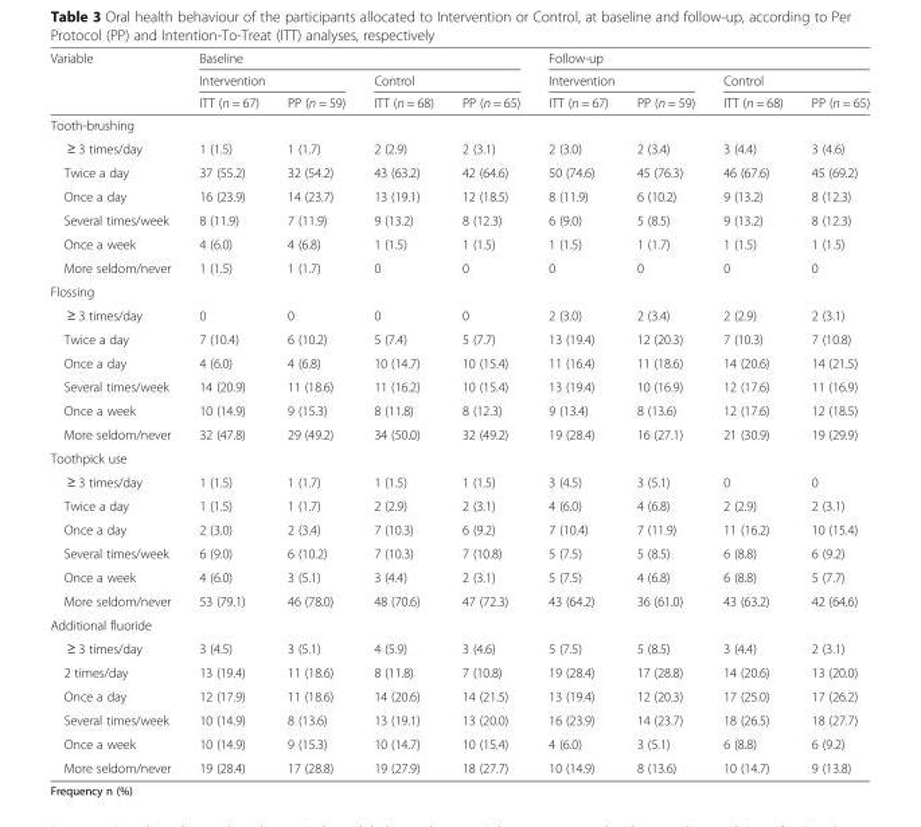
<table><thead><tr><td rowspan="3">Variable</td><td colspan="4">Baseline</td><td colspan="4">Follow-up</td></tr><tr><td colspan="2">Intervention</td><td colspan="2">Control</td><td colspan="2">Intervention</td><td colspan="2">Control</td></tr><tr><td>ITT (n = 67)</td><td>PP (n = 59)</td><td>ITT (n = 68)</td><td>PP (n = 65)</td><td>ITT (n = 67)</td><td>PP (n = 59)</td><td>ITT (n = 68)</td><td>PP (n = 65)</td></tr></thead><tbody><tr><td colspan="9">Tooth-brushing</td></tr><tr><td>≥ 3 times/day</td><td>1 (1.5)</td><td>1 (1.7)</td><td>2 (2.9)</td><td>2 (3.1)</td><td>2 (3.0)</td><td>2 (3.4)</td><td>3 (4.4)</td><td>3 (4.6)</td></tr><tr><td>Twice a day</td><td>37 (55.2)</td><td>32 (54.2)</td><td>43 (63.2)</td><td>42 (64.6)</td><td>50 (74.6)</td><td>45 (76.3)</td><td>46 (67.6)</td><td>45 (69.2)</td></tr><tr><td>Once a day</td><td>16 (23.9)</td><td>14 (23.7)</td><td>13 (19.1)</td><td>12 (18.5)</td><td>8 (11.9)</td><td>6 (10.2)</td><td>9 (13.2)</td><td>8 (12.3)</td></tr><tr><td>Several times/week</td><td>8 (11.9)</td><td>7 (11.9)</td><td>9 (13.2)</td><td>8 (12.3)</td><td>6 (9.0)</td><td>5 (8.5)</td><td>9 (13.2)</td><td>8 (12.3)</td></tr><tr><td>Once a week</td><td>4 (6.0)</td><td>4 (6.8)</td><td>1 (1.5)</td><td>1 (1.5)</td><td>1 (1.5)</td><td>1 (1.7)</td><td>1 (1.5)</td><td>1 (1.5)</td></tr><tr><td>More seldom/never</td><td>1 (1.5)</td><td>1 (1.7)</td><td>0</td><td>0</td><td>0</td><td>0</td><td>0</td><td>0</td></tr><tr><td colspan="9">Flossing</td></tr><tr><td>≥ 3 times/day</td><td>0</td><td>0</td><td>0</td><td>0</td><td>2 (3.0)</td><td>2 (3.4)</td><td>2 (2.9)</td><td>2 (3.1)</td></tr><tr><td>Twice a day</td><td>7 (10.4)</td><td>6 (10.2)</td><td>5 (7.4)</td><td>5 (7.7)</td><td>13 (19.4)</td><td>12 (20.3)</td><td>7 (10.3)</td><td>7 (10.8)</td></tr><tr><td>Once a day</td><td>4 (6.0)</td><td>4 (6.8)</td><td>10 (14.7)</td><td>10 (15.4)</td><td>11 (16.4)</td><td>11 (18.6)</td><td>14 (20.6)</td><td>14 (21.5)</td></tr><tr><td>Several times/week</td><td>14 (20.9)</td><td>11 (18.6)</td><td>11 (16.2)</td><td>10 (15.4)</td><td>13 (19.4)</td><td>10 (16.9)</td><td>12 (17.6)</td><td>11 (16.9)</td></tr><tr><td>Once a week</td><td>10 (14.9)</td><td>9 (15.3)</td><td>8 (11.8)</td><td>8 (12.3)</td><td>9 (13.4)</td><td>8 (13.6)</td><td>12 (17.6)</td><td>12 (18.5)</td></tr><tr><td>More seldom/never</td><td>32 (47.8)</td><td>29 (49.2)</td><td>34 (50.0)</td><td>32 (49.2)</td><td>19 (28.4)</td><td>16 (27.1)</td><td>21 (30.9)</td><td>19 (29.9)</td></tr><tr><td colspan="9">Toothpick use</td></tr><tr><td>≥ 3 times/day</td><td>1 (1.5)</td><td>1 (1.7)</td><td>1 (1.5)</td><td>1 (1.5)</td><td>3 (4.5)</td><td>3 (5.1)</td><td>0</td><td>0</td></tr><tr><td>Twice a day</td><td>1 (1.5)</td><td>1 (1.7)</td><td>2 (2.9)</td><td>2 (3.1)</td><td>4 (6.0)</td><td>4 (6.8)</td><td>2 (2.9)</td><td>2 (3.1)</td></tr><tr><td>Once a day</td><td>2 (3.0)</td><td>2 (3.4)</td><td>7 (10.3)</td><td>6 (9.2)</td><td>7 (10.4)</td><td>7 (11.9)</td><td>11 (16.2)</td><td>10 (15.4)</td></tr><tr><td>Several times/week</td><td>6 (9.0)</td><td>6 (10.2)</td><td>7 (10.3)</td><td>7 (10.8)</td><td>5 (7.5)</td><td>5 (8.5)</td><td>6 (8.8)</td><td>6 (9.2)</td></tr><tr><td>Once a week</td><td>4 (6.0)</td><td>3 (5.1)</td><td>3 (4.4)</td><td>2 (3.1)</td><td>5 (7.5)</td><td>4 (6.8)</td><td>6 (8.8)</td><td>5 (7.7)</td></tr><tr><td>More seldom/never</td><td>53 (79.1)</td><td>46 (78.0)</td><td>48 (70.6)</td><td>47 (72.3)</td><td>43 (64.2)</td><td>36 (61.0)</td><td>43 (63.2)</td><td>42 (64.6)</td></tr><tr><td colspan="9">Additional fluoride</td></tr><tr><td>≥ 3 times/day</td><td>3 (4.5)</td><td>3 (5.1)</td><td>4 (5.9)</td><td>3 (4.6)</td><td>5 (7.5)</td><td>5 (8.5)</td><td>3 (4.4)</td><td>2 (3.1)</td></tr><tr><td>2 times/day</td><td>13 (19.4)</td><td>11 (18.6)</td><td>8 (11.8)</td><td>7 (10.8)</td><td>19 (28.4)</td><td>17 (28.8)</td><td>14 (20.6)</td><td>13 (20.0)</td></tr><tr><td>Once a day</td><td>12 (17.9)</td><td>11 (18.6)</td><td>14 (20.6)</td><td>14 (21.5)</td><td>13 (19.4)</td><td>12 (20.3)</td><td>17 (25.0)</td><td>17 (26.2)</td></tr><tr><td>Several times/week</td><td>10 (14.9)</td><td>8 (13.6)</td><td>13 (19.1)</td><td>13 (20.0)</td><td>16 (23.9)</td><td>14 (23.7)</td><td>18 (26.5)</td><td>18 (27.7)</td></tr><tr><td>Once a week</td><td>10 (14.9)</td><td>9 (15.3)</td><td>10 (14.7)</td><td>10 (15.4)</td><td>4 (6.0)</td><td>3 (5.1)</td><td>6 (8.8)</td><td>6 (9.2)</td></tr><tr><td>More seldom/never</td><td>19 (28.4)</td><td>17 (28.8)</td><td>19 (27.9)</td><td>18 (27.7)</td><td>10 (14.9)</td><td>8 (13.6)</td><td>10 (14.7)</td><td>9 (13.8)</td></tr></tbody></table>